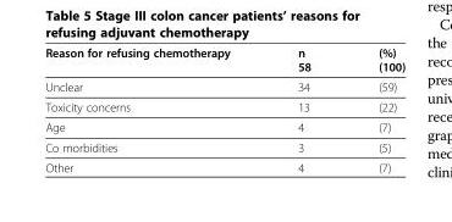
<table><thead><tr><td>Reason for refusing chemotherapy</td><td>n 58</td><td>(%) (100)</td></tr></thead><tbody><tr><td>Unclear</td><td>34</td><td>(59)</td></tr><tr><td>Toxicity concerns</td><td>13</td><td>(22)</td></tr><tr><td>Age</td><td>4</td><td>(7)</td></tr><tr><td>Co morbidities</td><td>3</td><td>(5)</td></tr><tr><td>Other</td><td>4</td><td>(7)</td></tr></tbody></table>